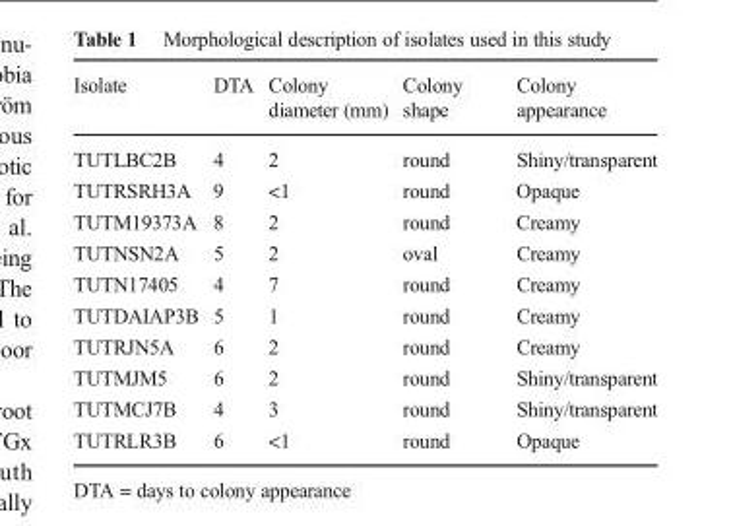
<table><thead><tr><td>Isolate</td><td>DTA</td><td>Colony diameter (mm)</td><td>Colony shape</td><td>Colony appearance</td></tr></thead><tbody><tr><td>TUTLBC2B</td><td>4</td><td>2</td><td>round</td><td>Shiny/transparent</td></tr><tr><td>TUTRSRH3A</td><td>9</td><td>&lt;1</td><td>round</td><td>Opaque</td></tr><tr><td>TUTM19373A</td><td>8</td><td>2</td><td>round</td><td>Creamy</td></tr><tr><td>TUTNSN2A</td><td>5</td><td>2</td><td>oval</td><td>Creamy</td></tr><tr><td>TUTN17405</td><td>4</td><td>7</td><td>round</td><td>Creamy</td></tr><tr><td>TUTDAIAP3B</td><td>5</td><td>1</td><td>round</td><td>Creamy</td></tr><tr><td>TUTRJN5A</td><td>6</td><td>2</td><td>round</td><td>Creamy</td></tr><tr><td>TUTMJM5</td><td>6</td><td>2</td><td>round</td><td>Shiny/transparent</td></tr><tr><td>TUTMCJ7B</td><td>4</td><td>3</td><td>round</td><td>Shiny/transparent</td></tr><tr><td>TUTRLR3B</td><td>6</td><td>&lt;1</td><td>round</td><td>Opaque</td></tr></tbody></table>